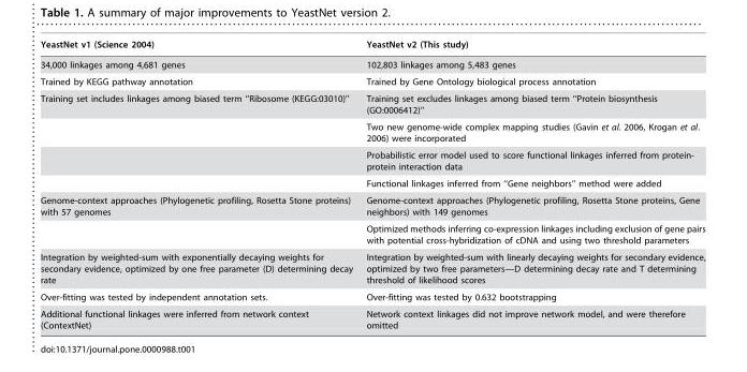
<table><thead><tr><td>YeastNet v1 (Science 2004)</td><td>YeastNet v2 (This study)</td></tr></thead><tbody><tr><td>34,000 linkages among 4,681 genes</td><td>102,803 linkages among 5,483 genes</td></tr><tr><td>Trained by KEGG pathway annotation</td><td>Trained by Gene Ontology biological process annotation</td></tr><tr><td rowspan="4">Training set includes linkages among biased term ‘‘Ribosome (KEGG:03010)’’</td><td>Training set excludes linkages among biased term ‘‘Protein biosynthesis (GO:0006412)’’</td></tr><tr><td>Two new genome-wide complex mapping studies (Gavin et al. 2006, Krogan et al. 2006) were incorporated</td></tr><tr><td>Probabilistic error model used to score functional linkages inferred from protein- protein interaction data</td></tr><tr><td>Functional linkages inferred from ‘‘Gene neighbors’’ method were added</td></tr><tr><td rowspan="2">Genome-context approaches (Phylogenetic profiling, Rosetta Stone proteins) with 57 genomes</td><td>Genome-context approaches (Phylogenetic profiling, Rosetta Stone proteins, Gene neighbors) with 149 genomes</td></tr><tr><td>Optimized methods inferring co-expression linkages including exclusion of gene pairs with potential cross-hybridization of cDNA and using two threshold parameters</td></tr><tr><td>Integration by weighted-sum with exponentially decaying weights for secondary evidence, optimized by one free parameter (D) determining decay rate</td><td>Integration by weighted-sum with linearly decaying weights for secondary evidence, optimized by two free parameters—D determining decay rate and T determining threshold of likelihood scores</td></tr><tr><td>Over-fitting was tested by independent annotation sets.</td><td>Over-fitting was tested by 0.632 bootstrapping</td></tr><tr><td>Additional functional linkages were inferred from network context (ContextNet)</td><td>Network context linkages did not improve network model, and were therefore omitted</td></tr></tbody></table>